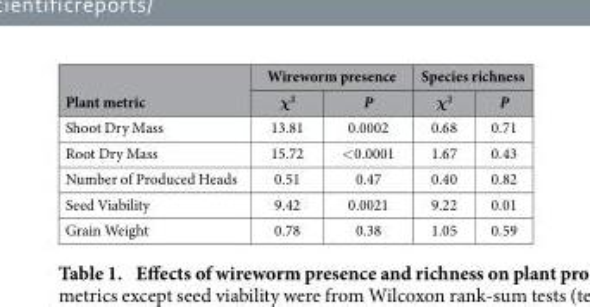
<table><thead><tr><td rowspan="2">Plant metric</td><td colspan="2">Wireworm presence</td><td colspan="2">Species richness</td></tr><tr><td>χ<sup>2</sup></td><td>P</td><td>χ<sup>2</sup></td><td>P</td></tr></thead><tbody><tr><td>Shoot Dry Mass</td><td>13.81</td><td>0.0002</td><td>0.68</td><td>0.71</td></tr><tr><td>Root Dry Mass</td><td>15.72</td><td>&lt; 0.0001</td><td>1.67</td><td>0.43</td></tr><tr><td>Number of Produced Heads</td><td>0.51</td><td>0.47</td><td>0.40</td><td>0.82</td></tr><tr><td>Seed Viability</td><td>9.42</td><td>0.0021</td><td>9.22</td><td>0.01</td></tr><tr><td>Grain Weight</td><td>0.78</td><td>0.38</td><td>1.05</td><td>0.59</td></tr></tbody></table>